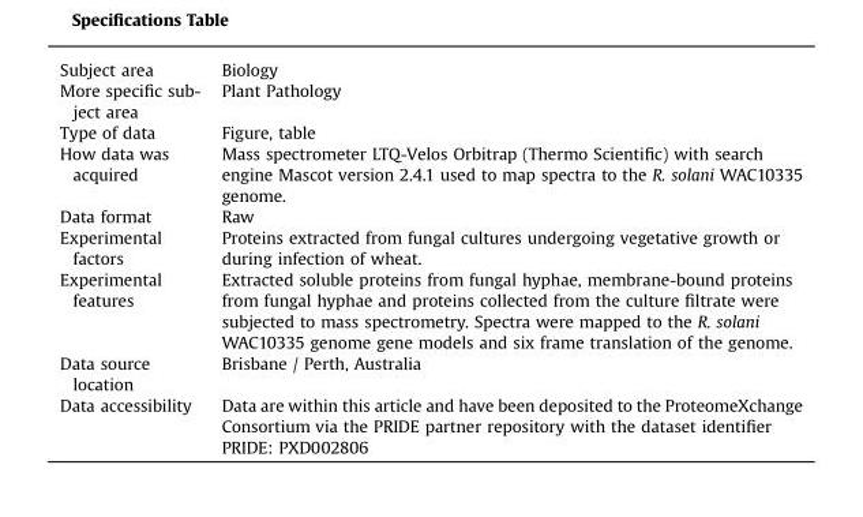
<table><tbody><tr><td>Subject area</td><td>Biology</td></tr><tr><td>More specific sub- ject area</td><td>Plant Pathology</td></tr><tr><td>Type of data</td><td>Figure, table</td></tr><tr><td>How data was acquired</td><td>Mass spectrometer LTQ-Velos Orbitrap (Thermo Scientific) with search engine Mascot version 2.4.1 used to map spectra to the R. solani WAC10335 genome.</td></tr><tr><td>Data format</td><td>Raw</td></tr><tr><td>Experimental factors</td><td>Proteins extracted from fungal cultures undergoing vegetative growth or during infection of wheat.</td></tr><tr><td>Experimental features</td><td>Extracted soluble proteins from fungal hyphae, membrane-bound proteins from fungal hyphae and proteins collected from the culture filtrate were subjected to mass spectrometry. Spectra were mapped to the R. solani WAC10335 genome gene models and six frame translation of the genome.</td></tr><tr><td>Data source location</td><td>Brisbane / Perth, Australia</td></tr><tr><td>Data accessibility</td><td>Data are within this article and have been deposited to the ProteomeXchange Consortium via the PRIDE partner repository with the dataset identifier PRIDE: PXD002806</td></tr></tbody></table>